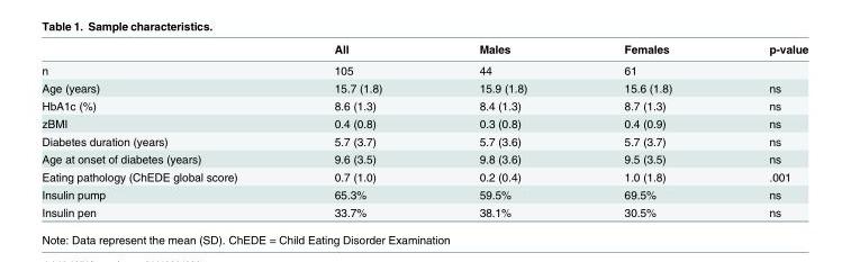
<table><thead><tr><td></td><td>All</td><td>Males</td><td>Females</td><td>p-value</td></tr></thead><tbody><tr><td>n</td><td>105</td><td>44</td><td>61</td><td></td></tr><tr><td>Age (years)</td><td>15.7 (1.8)</td><td>15.9 (1.8)</td><td>15.6 (1.8)</td><td>ns</td></tr><tr><td>HbA1c (%)</td><td>8.6 (1.3)</td><td>8.4 (1.3)</td><td>8.7 (1.3)</td><td>ns</td></tr><tr><td>zBMI</td><td>0.4 (0.8)</td><td>0.3 (0.8)</td><td>0.4 (0.9)</td><td>ns</td></tr><tr><td>Diabetes duration (years)</td><td>5.7 (3.7)</td><td>5.7 (3.6)</td><td>5.7 (3.7)</td><td>ns</td></tr><tr><td>Age at onset of diabetes (years)</td><td>9.6 (3.5)</td><td>9.8 (3.6)</td><td>9.5 (3.5)</td><td>ns</td></tr><tr><td>Eating pathology (ChEDE global score)</td><td>0.7 (1.0)</td><td>0.2 (0.4)</td><td>1.0 (1.8)</td><td>.001</td></tr><tr><td>Insulin pump</td><td>65.3%</td><td>59.5%</td><td>69.5%</td><td>ns</td></tr><tr><td>Insulin pen</td><td>33.7%</td><td>38.1%</td><td>30.5%</td><td>ns</td></tr></tbody></table>